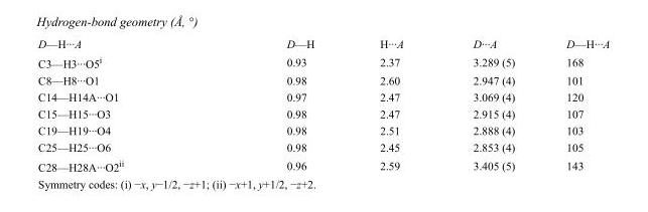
<table><tbody><tr><td>D—H···A</td><td>D—H</td><td>H···A</td><td>D···A</td><td>D—H···A</td></tr><tr><td>C3—H3···O5<sup>i</sup></td><td>0.93</td><td>2.37</td><td>3.289 (5)</td><td>168</td></tr><tr><td>C8—H8···O1</td><td>0.98</td><td>2.60</td><td>2.947 (4)</td><td>101</td></tr><tr><td>C14—H14A···O1</td><td>0.97</td><td>2.47</td><td>3.069 (4)</td><td>120</td></tr><tr><td>C15—H15···O3</td><td>0.98</td><td>2.47</td><td>2.915 (4)</td><td>107</td></tr><tr><td>C19—H19···O4</td><td>0.98</td><td>2.51</td><td>2.888 (4)</td><td>103</td></tr><tr><td>C25—H25···O6</td><td>0.98</td><td>2.45</td><td>2.853 (4)</td><td>105</td></tr><tr><td>C28—H28A···O2<sup>ii</sup></td><td>0.96</td><td>2.59</td><td>3.405 (5)</td><td>143</td></tr></tbody></table>